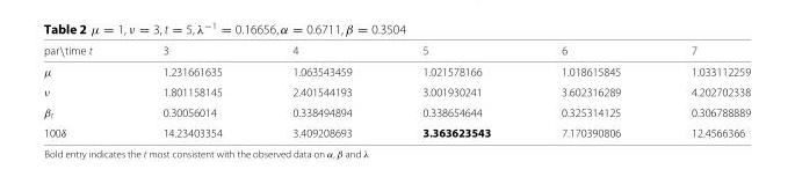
<table><thead><tr><td>par\time t</td><td>3</td><td>4</td><td>5</td><td>6</td><td>7</td></tr></thead><tbody><tr><td>μ</td><td>1.231661635</td><td>1.063543459</td><td>1.021578166</td><td>1.018615845</td><td>1.033112259</td></tr><tr><td>ν</td><td>1.801158145</td><td>2.401544193</td><td>3.001930241</td><td>3.602316289</td><td>4.202702338</td></tr><tr><td>β<sub>t</sub></td><td>0.30056014</td><td>0.338494894</td><td>0.338654644</td><td>0.325314125</td><td>0.306788889</td></tr><tr><td>100δ</td><td>14.23403354</td><td>3.409208693</td><td>3.363623543</td><td>7.170390806</td><td>12.4566366</td></tr></tbody></table>